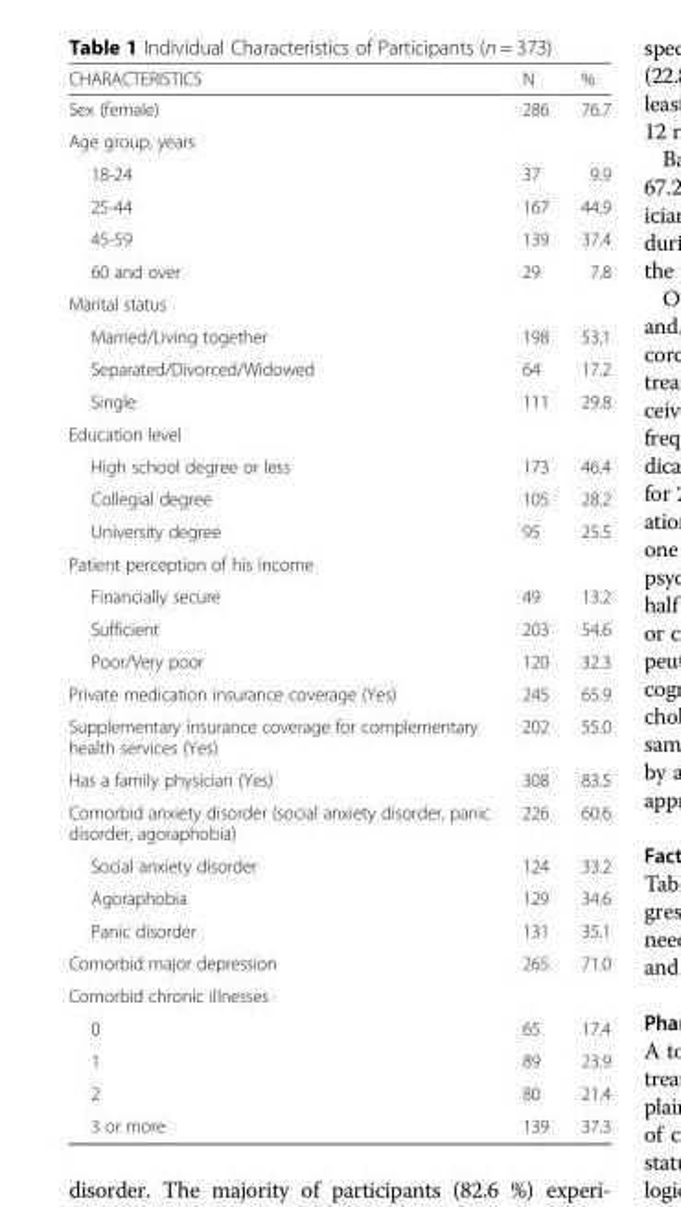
<table><thead><tr><td>CHARACTERISTICS</td><td>N</td><td>%</td></tr></thead><tbody><tr><td>Sex (female)</td><td>286</td><td>76.7</td></tr><tr><td colspan="3">Age group, years</td></tr><tr><td>18-24</td><td>37</td><td>9.9</td></tr><tr><td>25-44</td><td>167</td><td>44.9</td></tr><tr><td>45-59</td><td>139</td><td>37.4</td></tr><tr><td>60 and over</td><td>29</td><td>7.8</td></tr><tr><td colspan="3">Marital status</td></tr><tr><td>Married/Living together</td><td>198</td><td>53.1</td></tr><tr><td>Separated/Divorced/Widowed</td><td>64</td><td>17.2</td></tr><tr><td>Single</td><td>111</td><td>29.8</td></tr><tr><td colspan="3">Education level</td></tr><tr><td>High school degree or less</td><td>173</td><td>46.4</td></tr><tr><td>Collegial degree</td><td>105</td><td>28.2</td></tr><tr><td>University degree</td><td>95</td><td>25.5</td></tr><tr><td colspan="3">Patient perception of his income</td></tr><tr><td>Financially secure</td><td>49</td><td>13.2</td></tr><tr><td>Sufficient</td><td>203</td><td>54.6</td></tr><tr><td>Poor/Very poor</td><td>120</td><td>32.3</td></tr><tr><td>Private medication insurance coverage (Yes)</td><td>245</td><td>65.9</td></tr><tr><td>Supplementary insurance coverage for complementary health services (Yes)</td><td>202</td><td>55.0</td></tr><tr><td>Has a family physician (Yes)</td><td>308</td><td>83.5</td></tr><tr><td>Comorbid anxiety disorder (social anxiety disorder, panic disorder, agoraphobia)</td><td>226</td><td>60.6</td></tr><tr><td>Social anxiety disorder</td><td>124</td><td>33.2</td></tr><tr><td>Agoraphobia</td><td>129</td><td>34.6</td></tr><tr><td>Panic disorder</td><td>131</td><td>35.1</td></tr><tr><td>Comorbid major depression</td><td>265</td><td>71.0</td></tr><tr><td colspan="3">Comorbid chronic illnesses</td></tr><tr><td>0</td><td>65</td><td>17.4</td></tr><tr><td>1</td><td>89</td><td>23.9</td></tr><tr><td>2</td><td>80</td><td>21.4</td></tr><tr><td>3 or more</td><td>139</td><td>37.3</td></tr></tbody></table>